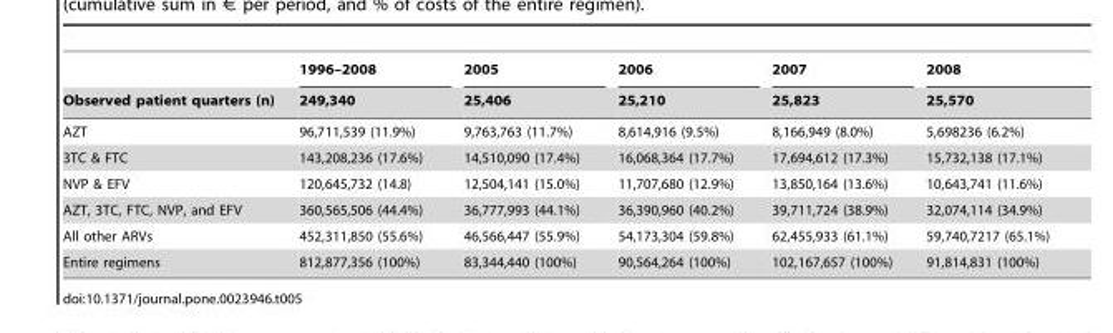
<table><thead><tr><td rowspan="2">Observed patient quarters (n)</td><td rowspan="2">1996–2008 249,340</td><td rowspan="2">2005 25,406</td><td rowspan="2">2006 25,210</td><td rowspan="2">2007 25,823</td><td rowspan="2">2008 25,570</td></tr><tr></tr></thead><tbody><tr><td>AZT</td><td>96,711,539 (11.9%)</td><td>9,763,763 (11.7%)</td><td>8,614,916 (9.5%)</td><td>8,166,949 (8.0%)</td><td>5,698236 (6.2%)</td></tr><tr><td>3TC &amp; FTC</td><td>143,208,236 (17.6%)</td><td>14,510,090 (17.4%)</td><td>16,068,364 (17.7%)</td><td>17,694,612 (17.3%)</td><td>15,732,138 (17.1%)</td></tr><tr><td>NVP &amp; EFV</td><td>120,645,732 (14.8)</td><td>12,504,141 (15.0%)</td><td>11,707,680 (12.9%)</td><td>13,850,164 (13.6%)</td><td>10,643,741 (11.6%)</td></tr><tr><td>AZT, 3TC, FTC, NVP, and EFV</td><td>360,565,506 (44.4%)</td><td>36,777,993 (44.1%)</td><td>36,390,960 (40.2%)</td><td>39,711,724 (38.9%)</td><td>32,074,114 (34.9%)</td></tr><tr><td>All other ARVs</td><td>452,311,850 (55.6%)</td><td>46,566,447 (55.9%)</td><td>54,173,304 (59.8%)</td><td>62,455,933 (61.1%)</td><td>59,740,7217 (65.1%)</td></tr><tr><td>Entire regimens</td><td>812,877,356 (100%)</td><td>83,344,440 (100%)</td><td>90,564,264 (100%)</td><td>102,167,657 (100%)</td><td>91,814,831 (100%)</td></tr></tbody></table>